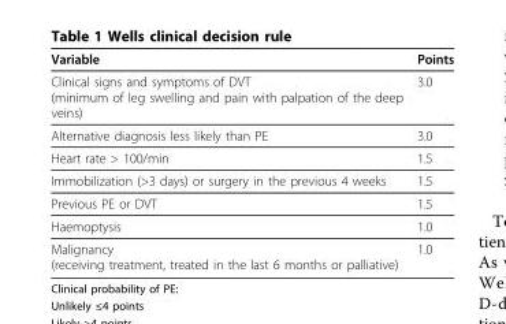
<table><thead><tr><td>Variable</td><td>Points</td></tr></thead><tbody><tr><td>Clinical signs and symptoms of DVT (minimum of leg swelling and pain with palpation of the deep veins)</td><td>3.0</td></tr><tr><td>Alternative diagnosis less likely than PE</td><td>3.0</td></tr><tr><td>Heart rate &gt; 100/min</td><td>1.5</td></tr><tr><td>Immobilization (&gt;3 days) or surgery in the previous 4 weeks</td><td>1.5</td></tr><tr><td>Previous PE or DVT</td><td>1.5</td></tr><tr><td>Haemoptysis</td><td>1.0</td></tr><tr><td>Malignancy (receiving treatment, treated in the last 6 months or palliative)</td><td>1.0</td></tr></tbody></table>